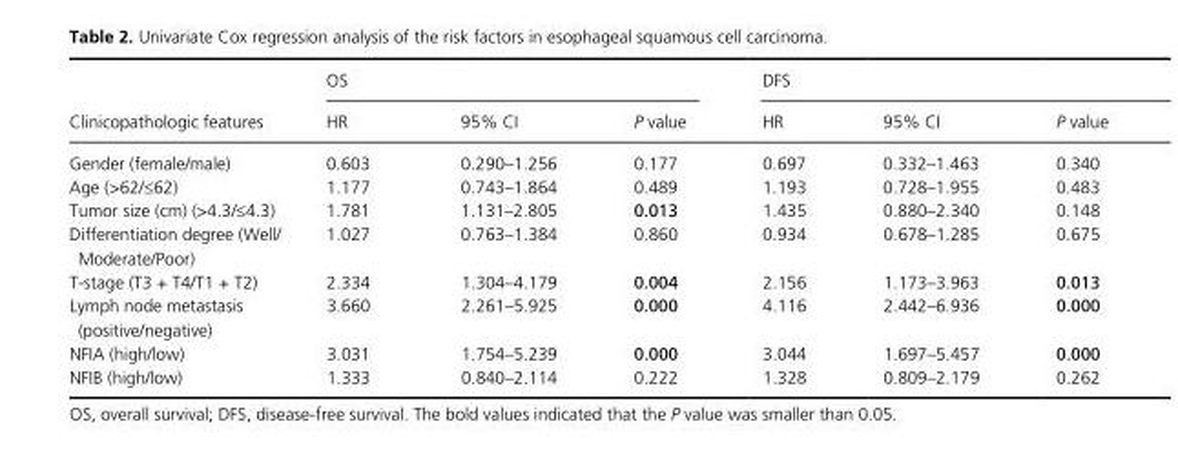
<table><thead><tr><td rowspan="2">Clinicopathologic features</td><td colspan="3">OS</td><td colspan="3">DFS</td></tr><tr><td>HR</td><td>95% CI</td><td>P value</td><td>HR</td><td>95% CI</td><td>P value</td></tr></thead><tbody><tr><td>Gender (female/male)</td><td>0.603</td><td>0.290–1.256</td><td>0.177</td><td>0.697</td><td>0.332–1.463</td><td>0.340</td></tr><tr><td>Age (&gt;62/≤62)</td><td>1.177</td><td>0.743–1.864</td><td>0.489</td><td>1.193</td><td>0.728–1.955</td><td>0.483</td></tr><tr><td>Tumor size (cm) (&gt;4.3/≤4.3)</td><td>1.781</td><td>1.131–2.805</td><td>0.013</td><td>1.435</td><td>0.880–2.340</td><td>0.148</td></tr><tr><td>Differentiation degree (Well/ Moderate/Poor)</td><td>1.027</td><td>0.763–1.384</td><td>0.860</td><td>0.934</td><td>0.678–1.285</td><td>0.675</td></tr><tr><td>T- stage (T3 + T4/T1 + T2)</td><td>2.334</td><td>1.304–4.179</td><td>0.004</td><td>2.156</td><td>1.173–3.963</td><td>0.013</td></tr><tr><td>Lymph node metastasis (positive/negative)</td><td>3.660</td><td>2.261–5.925</td><td>0.000</td><td>4.116</td><td>2.442–6.936</td><td>0.000</td></tr><tr><td>NFIA (high/low)</td><td>3.031</td><td>1.754–5.239</td><td>0.000</td><td>3.044</td><td>1.697–5.457</td><td>0.000</td></tr><tr><td>NFIB (high/low)</td><td>1.333</td><td>0.840–2.114</td><td>0.222</td><td>1.328</td><td>0.809–2.179</td><td>0.262</td></tr></tbody></table>